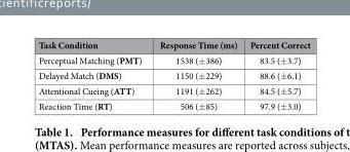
<table><thead><tr><td>Task Condition</td><td>Response Time (ms)</td><td>Percent Correct</td></tr></thead><tbody><tr><td>Perceptual Matching (PMT)</td><td>1538 (± 386)</td><td>83.5 (± 3.7)</td></tr><tr><td>Delayed Match (DMS)</td><td>1150 (± 229)</td><td>88.6 (± 6.1)</td></tr><tr><td>Attentional Cueing (ATT)</td><td>1191 (± 262)</td><td>84.5 (± 5.7)</td></tr><tr><td>Reaction Time (RT)</td><td>506 (± 85)</td><td>97.9 (± 3.0)</td></tr></tbody></table>